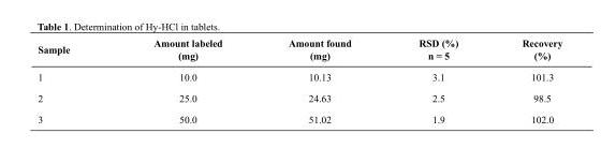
<table><thead><tr><td>Sample</td><td>Amount labeled (mg)</td><td>Amount found (mg)</td><td>RSD (%) n = 5</td><td>Recovery (%)</td></tr></thead><tbody><tr><td>1</td><td>10.0</td><td>10.13</td><td>3.1</td><td>101.3</td></tr><tr><td>2</td><td>25.0</td><td>24.63</td><td>2.5</td><td>98.5</td></tr><tr><td>3</td><td>50.0</td><td>51.02</td><td>1.9</td><td>102.0</td></tr></tbody></table>